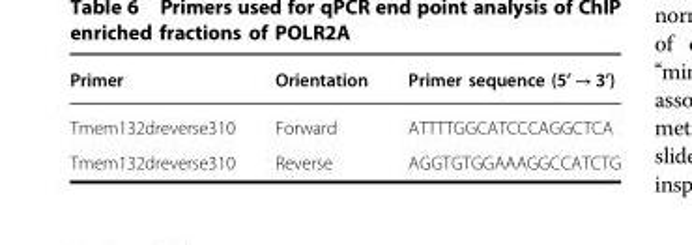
<table><thead><tr><td>Primer</td><td>Orientation</td><td>Primer sequence (5’ → 3’)</td></tr></thead><tbody><tr><td>Tmem132dreverse310</td><td>Forward</td><td>ATTTTGGCATCCCAGGCTCA</td></tr><tr><td>Tmem132dreverse310</td><td>Reverse</td><td>AGGTGTGGAAAGGCCATCTG</td></tr></tbody></table>